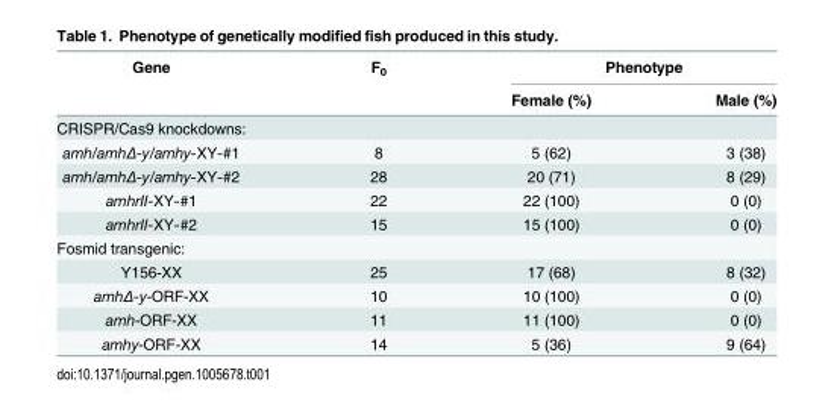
<table><thead><tr><td rowspan="2">Gene</td><td rowspan="2">F<sub>0</sub></td><td colspan="2">Phenotype</td></tr><tr><td>Female (%)</td><td>Male (%)</td></tr></thead><tbody><tr><td colspan="4">CRISPR/Cas9 knockdowns:</td></tr><tr><td>amh/amhΔ-y/amhy-XY-#1</td><td>8</td><td>5 (62)</td><td>3 (38)</td></tr><tr><td>amh/amhΔ-y/amhy-XY-#2</td><td>28</td><td>20 (71)</td><td>8 (29)</td></tr><tr><td>amhrII-XY-#1</td><td>22</td><td>22 (100)</td><td>0 (0)</td></tr><tr><td>amhrII-XY-#2</td><td>15</td><td>15 (100)</td><td>0 (0)</td></tr><tr><td colspan="4">Fosmid transgenic:</td></tr><tr><td>Y156-XX</td><td>25</td><td>17 (68)</td><td>8 (32)</td></tr><tr><td>amhΔ-y-ORF-XX</td><td>10</td><td>10 (100)</td><td>0 (0)</td></tr><tr><td>amh-ORF-XX</td><td>11</td><td>11 (100)</td><td>0 (0)</td></tr><tr><td>amhy-ORF-XX</td><td>14</td><td>5 (36)</td><td>9 (64)</td></tr></tbody></table>